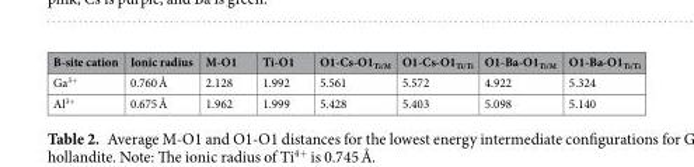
<table><thead><tr><td>B-site cation</td><td>Ionic radius</td><td>M-O1</td><td>Ti-O1</td><td>O1-Cs-O1<sub>Ti/M</sub></td><td>O1-Cs-O1<sub>Ti/Ti</sub></td><td>O1-Ba-O1<sub>Ti/M</sub></td><td>O1-Ba-O1<sub>Ti/Ti</sub></td></tr></thead><tbody><tr><td>Ga<sup>3+</sup></td><td>0.760 Å</td><td>2.128</td><td>1.992</td><td>5.561</td><td>5.572</td><td>4.922</td><td>5.324</td></tr><tr><td>Al<sup>3+</sup></td><td>0.675 Å</td><td>1.962</td><td>1.999</td><td>5.428</td><td>5.403</td><td>5.098</td><td>5.140</td></tr></tbody></table>